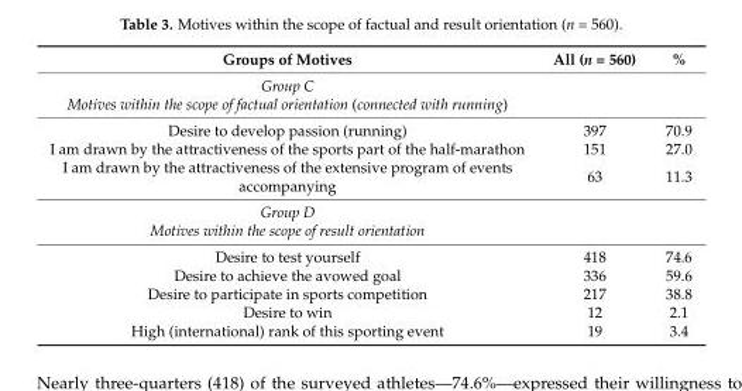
<table><thead><tr><td>Groups of Motives</td><td>All (n = 560)</td><td>%</td></tr></thead><tbody><tr><td colspan="3">Group C Motives within the scope of factual orientation (connected with running)</td></tr><tr><td>Desire to develop passion (running)</td><td>397</td><td>70.9</td></tr><tr><td>I am drawn by the attractiveness of the sports part of the half-marathon</td><td>151</td><td>27.0</td></tr><tr><td>I am drawn by the attractiveness of the extensive program of events accompanying</td><td>63</td><td>11.3</td></tr><tr><td colspan="3">Group D Motives within the scope of result orientation</td></tr><tr><td>Desire to test yourself</td><td>418</td><td>74.6</td></tr><tr><td>Desire to achieve the avowed goal</td><td>336</td><td>59.6</td></tr><tr><td>Desire to participate in sports competition</td><td>217</td><td>38.8</td></tr><tr><td>Desire to win</td><td>12</td><td>2.1</td></tr><tr><td>High (international) rank of this sporting event</td><td>19</td><td>3.4</td></tr></tbody></table>